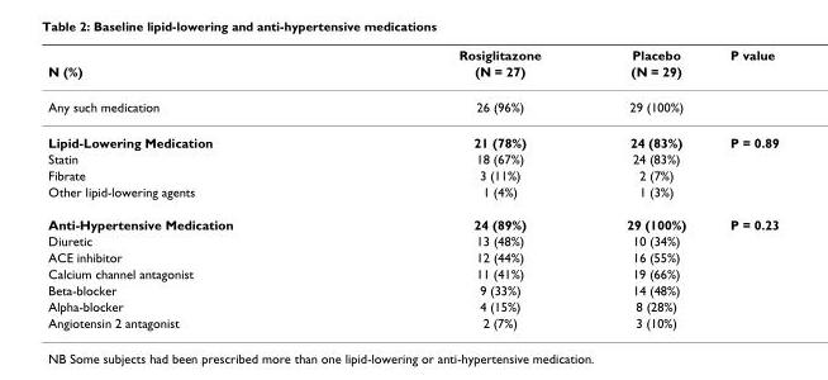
<table><thead><tr><td rowspan="2">N (%)</td><td rowspan="2">Rosiglitazone (N = 27)</td><td rowspan="2">Placebo (N = 29)</td><td rowspan="2">P value</td></tr><tr></tr></thead><tbody><tr><td>Any such medication</td><td>26 (96%)</td><td>29 (100%)</td><td></td></tr><tr><td>Lipid-Lowering Medication</td><td>21 (78%)</td><td>24 (83%)</td><td>P = 0.89</td></tr><tr><td>Statin</td><td>18 (67%)</td><td>24 (83%)</td><td></td></tr><tr><td>Fibrate</td><td>3 (11%)</td><td>2 (7%)</td><td></td></tr><tr><td>Other lipid-lowering agents</td><td>1 (4%)</td><td>1 (3%)</td><td></td></tr><tr><td>Anti-Hypertensive Medication</td><td>24 (89%)</td><td>29 (100%)</td><td>P = 0.23</td></tr><tr><td>Diuretic</td><td>13 (48%)</td><td>10 (34%)</td><td></td></tr><tr><td>ACE inhibitor</td><td>12 (44%)</td><td>16 (55%)</td><td></td></tr><tr><td>Calcium channel antagonist</td><td>11 (41%)</td><td>19 (66%)</td><td></td></tr><tr><td>Beta-blocker</td><td>9 (33%)</td><td>14 (48%)</td><td></td></tr><tr><td>Alpha-blocker</td><td>4 (15%)</td><td>8 (28%)</td><td></td></tr><tr><td>Angiotensin 2 antagonist</td><td>2 (7%)</td><td>3 (10%)</td><td></td></tr></tbody></table>